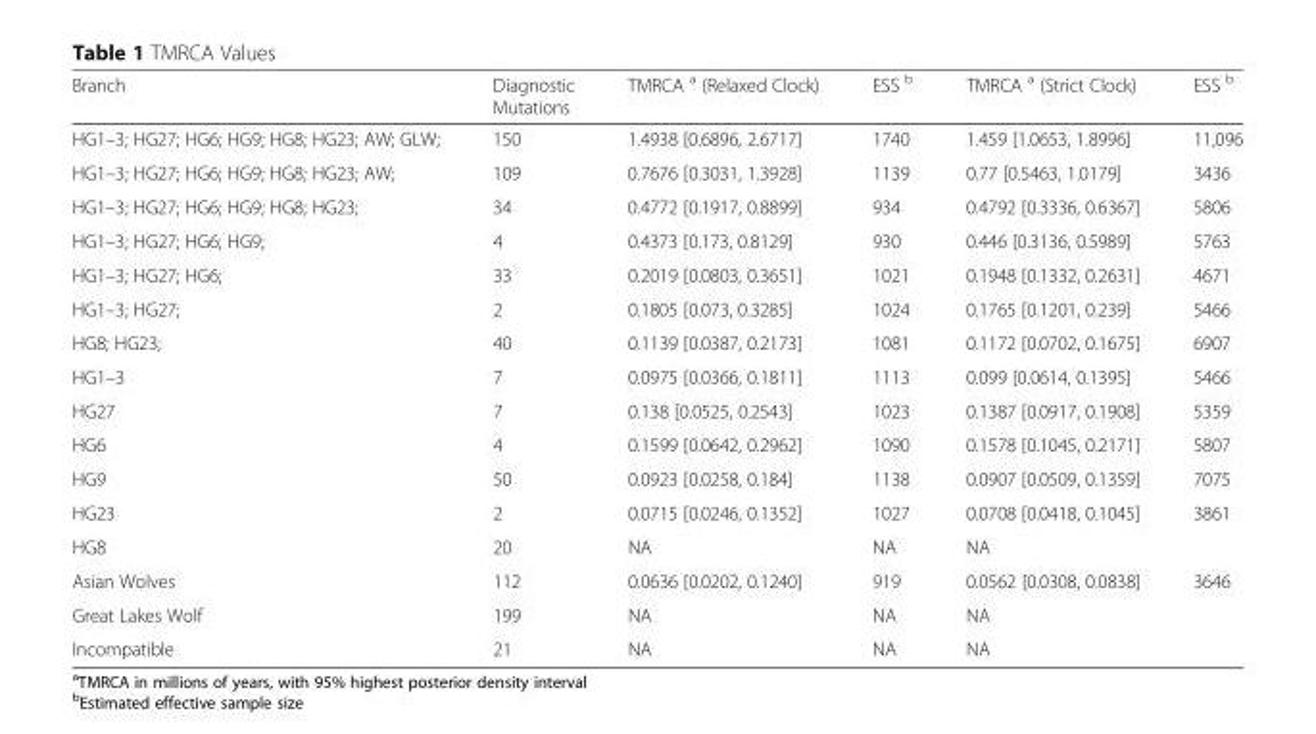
<table><thead><tr><td>Branch</td><td>Diagnostic Mutations</td><td>TMRCA <sup>a</sup> (Relaxed Clock)</td><td>ESS <sup>b</sup></td><td>TMRCA <sup>a</sup> (Strict Clock)</td><td>ESS <sup>b</sup></td></tr></thead><tbody><tr><td>HG1–3; HG27; HG6; HG9; HG8; HG23; AW; GLW;</td><td>150</td><td>1.4938 [0.6896, 2.6717]</td><td>1740</td><td>1.459 [1.0653, 1.8996]</td><td>11,096</td></tr><tr><td>HG1–3; HG27; HG6; HG9; HG8; HG23; AW;</td><td>109</td><td>0.7676 [0.3031, 1.3928]</td><td>1139</td><td>0.77 [0.5463, 1.0179]</td><td>3436</td></tr><tr><td>HG1–3; HG27; HG6; HG9; HG8; HG23;</td><td>34</td><td>0.4772 [0.1917, 0.8899]</td><td>934</td><td>0.4792 [0.3336, 0.6367]</td><td>5806</td></tr><tr><td>HG1–3; HG27; HG6; HG9;</td><td>4</td><td>0.4373 [0.173, 0.8129]</td><td>930</td><td>0.446 [0.3136, 0.5989]</td><td>5763</td></tr><tr><td>HG1–3; HG27; HG6;</td><td>33</td><td>0.2019 [0.0803, 0.3651]</td><td>1021</td><td>0.1948 [0.1332, 0.2631]</td><td>4671</td></tr><tr><td>HG1–3; HG27;</td><td>2</td><td>0.1805 [0.073, 0.3285]</td><td>1024</td><td>0.1765 [0.1201, 0.239]</td><td>5466</td></tr><tr><td>HG8; HG23;</td><td>40</td><td>0.1139 [0.0387, 0.2173]</td><td>1081</td><td>0.1172 [0.0702, 0.1675]</td><td>6907</td></tr><tr><td>HG1–3</td><td>7</td><td>0.0975 [0.0366, 0.1811]</td><td>1113</td><td>0.099 [0.0614, 0.1395]</td><td>5466</td></tr><tr><td>HG27</td><td>7</td><td>0.138 [0.0525, 0.2543]</td><td>1023</td><td>0.1387 [0.0917, 0.1908]</td><td>5359</td></tr><tr><td>HG6</td><td>4</td><td>0.1599 [0.0642, 0.2962]</td><td>1090</td><td>0.1578 [0.1045, 0.2171]</td><td>5807</td></tr><tr><td>HG9</td><td>50</td><td>0.0923 [0.0258, 0.184]</td><td>1138</td><td>0.0907 [0.0509, 0.1359]</td><td>7075</td></tr><tr><td>HG23</td><td>2</td><td>0.0715 [0.0246, 0.1352]</td><td>1027</td><td>0.0708 [0.0418, 0.1045]</td><td>3861</td></tr><tr><td>HG8</td><td>20</td><td>NA</td><td>NA</td><td>NA</td><td></td></tr><tr><td>Asian Wolves</td><td>112</td><td>0.0636 [0.0202, 0.1240]</td><td>919</td><td>0.0562 [0.0308, 0.0838]</td><td>3646</td></tr><tr><td>Great Lakes Wolf</td><td>199</td><td>NA</td><td>NA</td><td>NA</td><td></td></tr><tr><td>Incompatible</td><td>21</td><td>NA</td><td>NA</td><td>NA</td><td></td></tr></tbody></table>